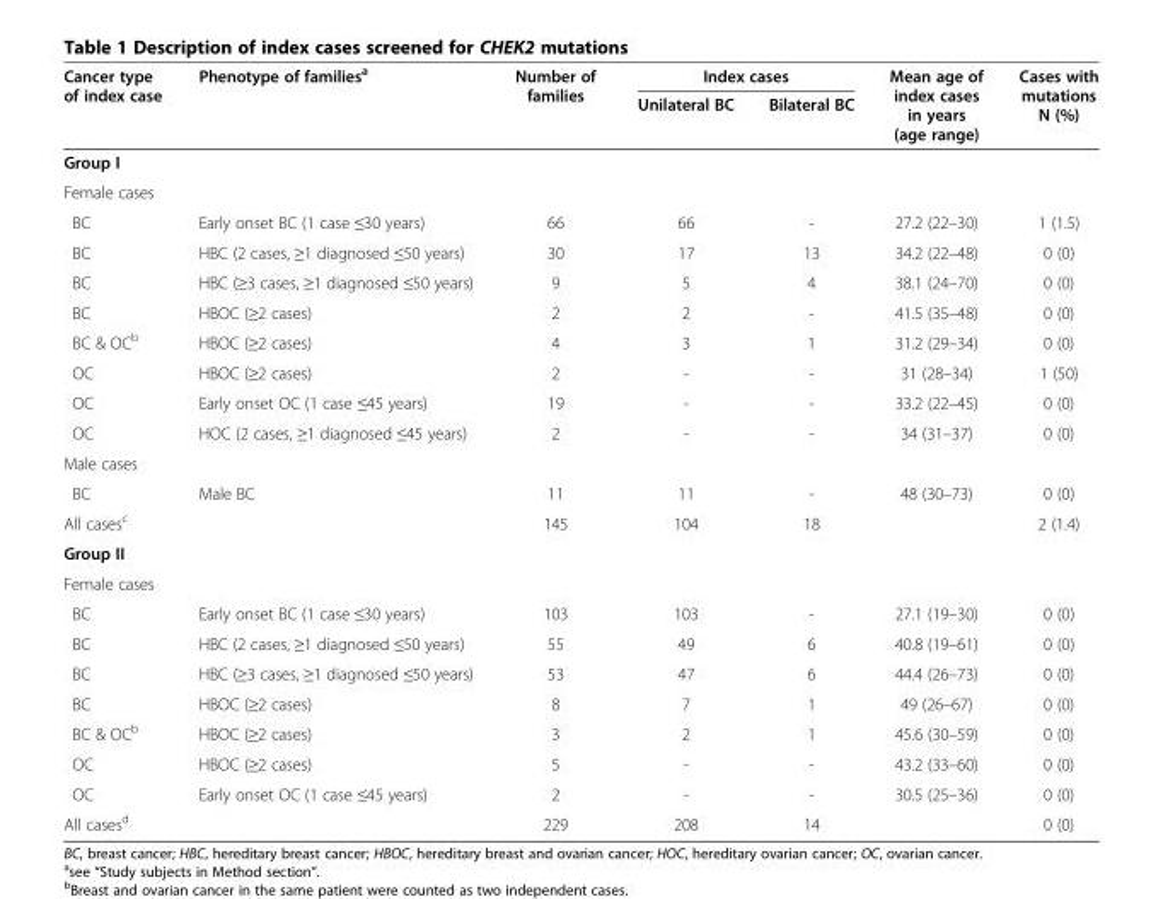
<table><thead><tr><td rowspan="2">Cancer type of index case</td><td rowspan="2">Phenotype of families<sup>a</sup></td><td rowspan="2">Number of families</td><td colspan="2">Index cases</td><td rowspan="2">Mean age of index cases in years (age range)</td><td rowspan="2">Cases with mutations N (%)</td></tr><tr><td>Unilateral BC</td><td>Bilateral BC</td></tr></thead><tbody><tr><td colspan="7">Group I</td></tr><tr><td colspan="7">Female cases</td></tr><tr><td>BC</td><td>Early onset BC (1 case ≤30 years)</td><td>66</td><td>66</td><td>-</td><td>27.2 (22–30)</td><td>1 (1.5)</td></tr><tr><td>BC</td><td>HBC (2 cases, ≥1 diagnosed ≤50 years)</td><td>30</td><td>17</td><td>13</td><td>34.2 (22–48)</td><td>0 (0)</td></tr><tr><td>BC</td><td>HBC (≥3 cases, ≥1 diagnosed ≤50 years)</td><td>9</td><td>5</td><td>4</td><td>38.1 (24–70)</td><td>0 (0)</td></tr><tr><td>BC</td><td>HBOC (≥2 cases)</td><td>2</td><td>2</td><td>-</td><td>41.5 (35–48)</td><td>0 (0)</td></tr><tr><td>BC &amp; OC<sup>b</sup></td><td>HBOC (≥2 cases)</td><td>4</td><td>3</td><td>1</td><td>31.2 (29–34)</td><td>0 (0)</td></tr><tr><td>OC</td><td>HBOC (≥2 cases)</td><td>2</td><td>-</td><td>-</td><td>31 (28–34)</td><td>1 (50)</td></tr><tr><td>OC</td><td>Early onset OC (1 case ≤45 years)</td><td>19</td><td>-</td><td>-</td><td>33.2 (22–45)</td><td>0 (0)</td></tr><tr><td>OC</td><td>HOC (2 cases, ≥1 diagnosed ≤45 years)</td><td>2</td><td>-</td><td>-</td><td>34 (31–37)</td><td>0 (0)</td></tr><tr><td colspan="7">Male cases</td></tr><tr><td>BC</td><td>Male BC</td><td>11</td><td>11</td><td>-</td><td>48 (30–73)</td><td>0 (0)</td></tr><tr><td colspan="2">All cases<sup>c</sup></td><td>145</td><td>104</td><td>18</td><td></td><td>2 (1.4)</td></tr><tr><td colspan="7">Group II</td></tr><tr><td colspan="7">Female cases</td></tr><tr><td>BC</td><td>Early onset BC (1 case ≤30 years)</td><td>103</td><td>103</td><td>-</td><td>27.1 (19–30)</td><td>0 (0)</td></tr><tr><td>BC</td><td>HBC (2 cases, ≥1 diagnosed ≤50 years)</td><td>55</td><td>49</td><td>6</td><td>40.8 (19–61)</td><td>0 (0)</td></tr><tr><td>BC</td><td>HBC (≥3 cases, ≥1 diagnosed ≤50 years)</td><td>53</td><td>47</td><td>6</td><td>44.4 (26–73)</td><td>0 (0)</td></tr><tr><td>BC</td><td>HBOC (≥2 cases)</td><td>8</td><td>7</td><td>1</td><td>49 (26–67)</td><td>0 (0)</td></tr><tr><td>BC &amp; OC<sup>b</sup></td><td>HBOC (≥2 cases)</td><td>3</td><td>2</td><td>1</td><td>45.6 (30–59)</td><td>0 (0)</td></tr><tr><td>OC</td><td>HBOC (≥2 cases)</td><td>5</td><td>-</td><td>-</td><td>43.2 (33–60)</td><td>0 (0)</td></tr><tr><td>OC</td><td>Early onset OC (1 case ≤45 years)</td><td>2</td><td>-</td><td>-</td><td>30.5 (25–36)</td><td>0 (0)</td></tr><tr><td>All cases<sup>d</sup></td><td></td><td>229</td><td>208</td><td>14</td><td></td><td>0 (0)</td></tr></tbody></table>